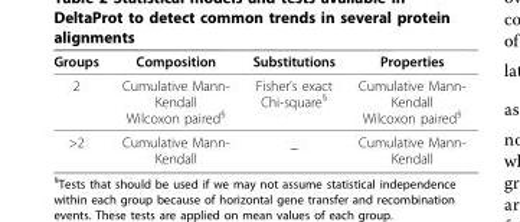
<table><thead><tr><td>Groups</td><td>Composition</td><td>Substitutions</td><td>Properties</td></tr></thead><tbody><tr><td>2</td><td>Cumulative Mann- Kendall Wilcoxon paired<sup>§</sup></td><td>Fisher’s exact Chi-square<sup>§</sup></td><td>Cumulative Mann- Kendall Wilcoxon paired<sup>§</sup></td></tr><tr><td>&gt;2</td><td>Cumulative Mann- Kendall</td><td>_</td><td>Cumulative Mann- Kendall</td></tr></tbody></table>